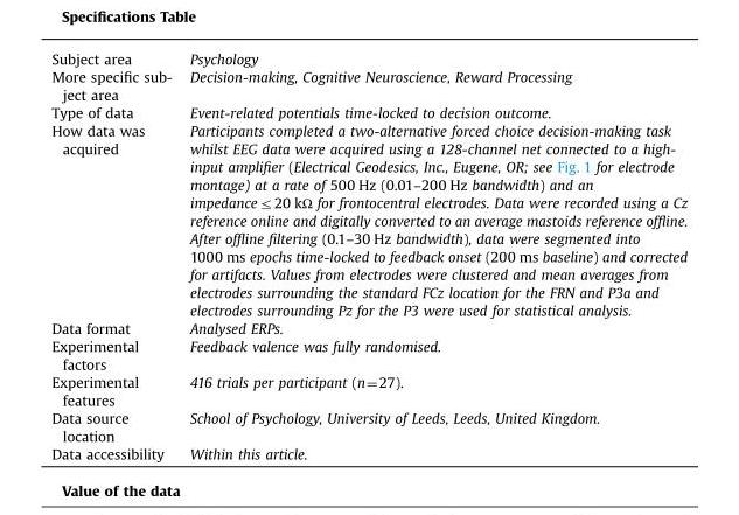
<table><thead><tr><td>Subject area</td><td>Psychology</td></tr></thead><tbody><tr><td>More specific sub- ject area</td><td>Decision-making, Cognitive Neuroscience, Reward Processing</td></tr><tr><td>Type of data</td><td>Event-related potentials time-locked to decision outcome.</td></tr><tr><td>How data was acquired</td><td>Participants completed a two-alternative forced choice decision-making task whilst EEG data were acquired using a 128-channel net connected to a high- input amplifier (Electrical Geodesics, Inc., Eugene, OR; see Fig. 1 for electrode montage) at a rate of 500 Hz (0.01–200 Hz bandwidth) and an impedance≤20 kΩ for frontocentral electrodes. Data were recorded using a Cz reference online and digitally converted to an average mastoids reference offline. After offline filtering (0.1–30 Hz bandwidth), data were segmented into 1000 ms epochs time-locked to feedback onset (200 ms baseline) and corrected for artifacts. Values from electrodes were clustered and mean averages from electrodes surrounding the standard FCz location for the FRN and P3a and electrodes surrounding Pz for the P3 were used for statistical analysis.</td></tr><tr><td>Data format</td><td>Analysed ERPs.</td></tr><tr><td>Experimental factors</td><td>Feedback valence was fully randomised.</td></tr><tr><td>Experimental features</td><td>416 trials per participant (n=27).</td></tr><tr><td>Data source location</td><td>School of Psychology, University of Leeds, Leeds, United Kingdom.</td></tr><tr><td>Data accessibility</td><td>Within this article.</td></tr></tbody></table>